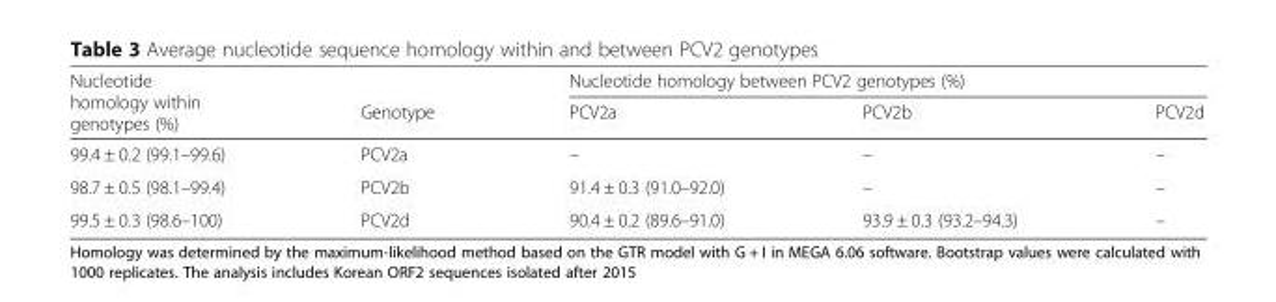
<table><thead><tr><td rowspan="2">Nucleotide homology within genotypes (%)</td><td rowspan="2">Genotype</td><td colspan="3">Nucleotide homology between PCV2 genotypes (%)</td></tr><tr><td>PCV2a</td><td>PCV2b</td><td>PCV2d</td></tr></thead><tbody><tr><td>99.4 ± 0.2 (99.1–99.6)</td><td>PCV2a</td><td>–</td><td>–</td><td>–</td></tr><tr><td>98.7 ± 0.5 (98.1–99.4)</td><td>PCV2b</td><td>91.4 ± 0.3 (91.0–92.0)</td><td>–</td><td>–</td></tr><tr><td>99.5 ± 0.3 (98.6–100)</td><td>PCV2d</td><td>90.4 ± 0.2 (89.6–91.0)</td><td>93.9 ± 0.3 (93.2–94.3)</td><td>–</td></tr></tbody></table>